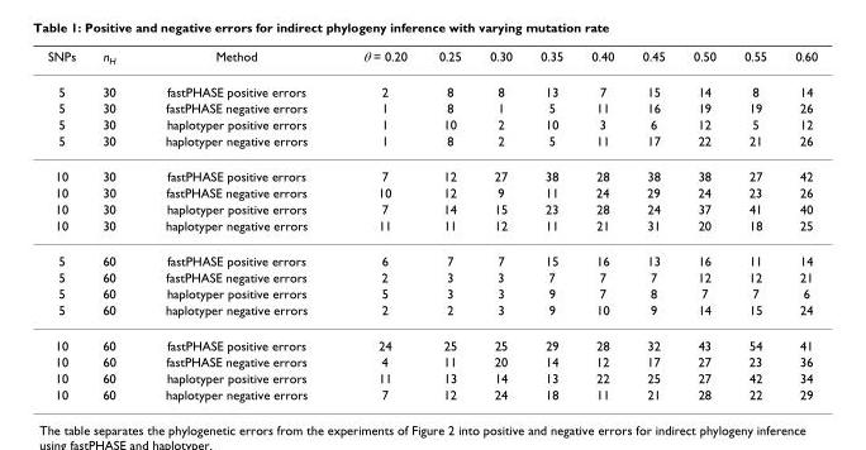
<table><thead><tr><td>SNPs</td><td>n<sub>H</sub></td><td>Method</td><td>θ = 0.20</td><td>0.25</td><td>0.30</td><td>0.35</td><td>0.40</td><td>0.45</td><td>0.50</td><td>0.55</td><td>0.60</td></tr></thead><tbody><tr><td>5</td><td>30</td><td>fastPHASE positive errors</td><td>2</td><td>8</td><td>8</td><td>13</td><td>7</td><td>15</td><td>14</td><td>8</td><td>14</td></tr><tr><td>5</td><td>30</td><td>fastPHASE negative errors</td><td>1</td><td>8</td><td>1</td><td>5</td><td>11</td><td>16</td><td>19</td><td>19</td><td>26</td></tr><tr><td>5</td><td>30</td><td>haplotyper positive errors</td><td>1</td><td>10</td><td>2</td><td>10</td><td>3</td><td>6</td><td>12</td><td>5</td><td>12</td></tr><tr><td>5</td><td>30</td><td>haplotyper negative errors</td><td>1</td><td>8</td><td>2</td><td>5</td><td>11</td><td>17</td><td>22</td><td>21</td><td>26</td></tr><tr><td>10</td><td>30</td><td>fastPHASE positive errors</td><td>7</td><td>12</td><td>27</td><td>38</td><td>28</td><td>38</td><td>38</td><td>27</td><td>42</td></tr><tr><td>10</td><td>30</td><td>fastPHASE negative errors</td><td>10</td><td>12</td><td>9</td><td>11</td><td>24</td><td>29</td><td>24</td><td>23</td><td>26</td></tr><tr><td>10</td><td>30</td><td>haplotyper positive errors</td><td>7</td><td>14</td><td>15</td><td>23</td><td>28</td><td>24</td><td>37</td><td>41</td><td>40</td></tr><tr><td>10</td><td>30</td><td>haplotyper negative errors</td><td>11</td><td>11</td><td>12</td><td>11</td><td>21</td><td>31</td><td>20</td><td>18</td><td>25</td></tr><tr><td>5</td><td>60</td><td>fastPHASE positive errors</td><td>6</td><td>7</td><td>7</td><td>15</td><td>16</td><td>13</td><td>16</td><td>11</td><td>14</td></tr><tr><td>5</td><td>60</td><td>fastPHASE negative errors</td><td>2</td><td>3</td><td>3</td><td>7</td><td>7</td><td>7</td><td>12</td><td>12</td><td>21</td></tr><tr><td>5</td><td>60</td><td>haplotyper positive errors</td><td>5</td><td>3</td><td>3</td><td>9</td><td>7</td><td>8</td><td>7</td><td>7</td><td>6</td></tr><tr><td>5</td><td>60</td><td>haplotyper negative errors</td><td>2</td><td>2</td><td>3</td><td>9</td><td>10</td><td>9</td><td>14</td><td>15</td><td>24</td></tr><tr><td>10</td><td>60</td><td>fastPHASE positive errors</td><td>24</td><td>25</td><td>25</td><td>29</td><td>28</td><td>32</td><td>43</td><td>54</td><td>41</td></tr><tr><td>10</td><td>60</td><td>fastPHASE negative errors</td><td>4</td><td>11</td><td>20</td><td>14</td><td>12</td><td>17</td><td>27</td><td>23</td><td>36</td></tr><tr><td>10</td><td>60</td><td>haplotyper positive errors</td><td>11</td><td>13</td><td>14</td><td>13</td><td>22</td><td>25</td><td>27</td><td>42</td><td>34</td></tr><tr><td>10</td><td>60</td><td>haplotyper negative errors</td><td>7</td><td>12</td><td>24</td><td>18</td><td>11</td><td>21</td><td>28</td><td>22</td><td>29</td></tr></tbody></table>